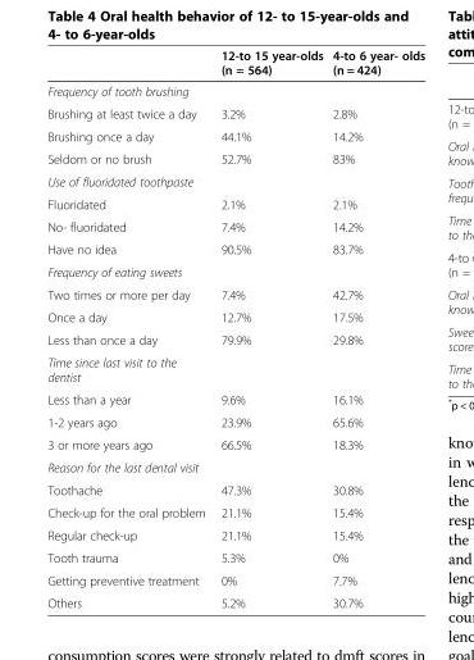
<table><thead><tr><td></td><td>12-to 15 year-olds (n = 564)</td><td>4-to 6 year- olds (n = 424)</td></tr></thead><tbody><tr><td colspan="3">Frequency of tooth brushing</td></tr><tr><td>Brushing at least twice a day</td><td>3.2%</td><td>2.8%</td></tr><tr><td>Brushing once a day</td><td>44.1%</td><td>14.2%</td></tr><tr><td>Seldom or no brush</td><td>52.7%</td><td>83%</td></tr><tr><td colspan="3">Use of fluoridated toothpaste</td></tr><tr><td>Fluoridated</td><td>2.1%</td><td>2.1%</td></tr><tr><td>No- fluoridated</td><td>7.4%</td><td>14.2%</td></tr><tr><td>Have no idea</td><td>90.5%</td><td>83.7%</td></tr><tr><td colspan="3">Frequency of eating sweets</td></tr><tr><td>Two times or more per day</td><td>7.4%</td><td>42.7%</td></tr><tr><td>Once a day</td><td>12.7%</td><td>17.5%</td></tr><tr><td>Less than once a day</td><td>79.9%</td><td>29.8%</td></tr><tr><td colspan="3">Time since last visit to the dentist</td></tr><tr><td>Less than a year</td><td>9.6%</td><td>16.1%</td></tr><tr><td>1-2 years ago</td><td>23.9%</td><td>65.6%</td></tr><tr><td>3 or more years ago</td><td>66.5%</td><td>18.3%</td></tr><tr><td colspan="3">Reason for the last dental visit</td></tr><tr><td>Toothache</td><td>47.3%</td><td>30.8%</td></tr><tr><td>Check-up for the oral problem</td><td>21.1%</td><td>15.4%</td></tr><tr><td>Regular check-up</td><td>21.1%</td><td>15.4%</td></tr><tr><td>Tooth trauma</td><td>5.3%</td><td>0%</td></tr><tr><td>Getting preventive treatment</td><td>0%</td><td>7.7%</td></tr><tr><td>Others</td><td>5.2%</td><td>30.7%</td></tr></tbody></table>